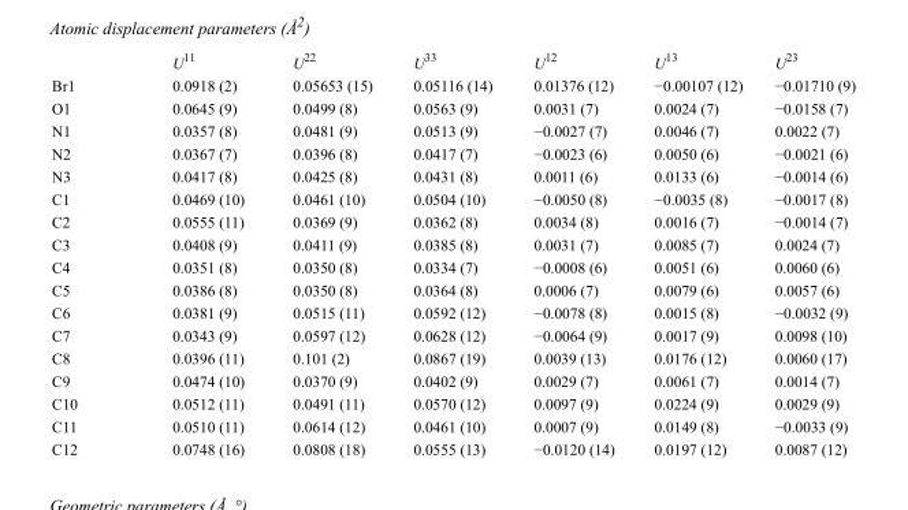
<table><thead><tr><td></td><td>U<sup>11</sup></td><td>U<sup>22</sup></td><td>U<sup>33</sup></td><td>U<sup>12</sup></td><td>U<sup>13</sup></td><td>U<sup>23</sup></td></tr></thead><tbody><tr><td>Br1</td><td>0.0918 (2)</td><td>0.05653 (15)</td><td>0.05116 (14)</td><td>0.01376 (12)</td><td>−0.00107 (12)</td><td>−0.01710 (9)</td></tr><tr><td>O1</td><td>0.0645 (9)</td><td>0.0499 (8)</td><td>0.0563 (9)</td><td>0.0031 (7)</td><td>0.0024 (7)</td><td>−0.0158 (7)</td></tr><tr><td>N1</td><td>0.0357 (8)</td><td>0.0481 (9)</td><td>0.0513 (9)</td><td>−0.0027 (7)</td><td>0.0046 (7)</td><td>0.0022 (7)</td></tr><tr><td>N2</td><td>0.0367 (7)</td><td>0.0396 (8)</td><td>0.0417 (7)</td><td>−0.0023 (6)</td><td>0.0050 (6)</td><td>−0.0021 (6)</td></tr><tr><td>N3</td><td>0.0417 (8)</td><td>0.0425 (8)</td><td>0.0431 (8)</td><td>0.0011 (6)</td><td>0.0133 (6)</td><td>−0.0014 (6)</td></tr><tr><td>C1</td><td>0.0469 (10)</td><td>0.0461 (10)</td><td>0.0504 (10)</td><td>−0.0050 (8)</td><td>−0.0035 (8)</td><td>−0.0017 (8)</td></tr><tr><td>C2</td><td>0.0555 (11)</td><td>0.0369 (9)</td><td>0.0362 (8)</td><td>0.0034 (8)</td><td>0.0016 (7)</td><td>−0.0014 (7)</td></tr><tr><td>C3</td><td>0.0408 (9)</td><td>0.0411 (9)</td><td>0.0385 (8)</td><td>0.0031 (7)</td><td>0.0085 (7)</td><td>0.0024 (7)</td></tr><tr><td>C4</td><td>0.0351 (8)</td><td>0.0350 (8)</td><td>0.0334 (7)</td><td>−0.0008 (6)</td><td>0.0051 (6)</td><td>0.0060 (6)</td></tr><tr><td>C5</td><td>0.0386 (8)</td><td>0.0350 (8)</td><td>0.0364 (8)</td><td>0.0006 (7)</td><td>0.0079 (6)</td><td>0.0057 (6)</td></tr><tr><td>C6</td><td>0.0381 (9)</td><td>0.0515 (11)</td><td>0.0592 (12)</td><td>−0.0078 (8)</td><td>0.0015 (8)</td><td>−0.0032 (9)</td></tr><tr><td>C7</td><td>0.0343 (9)</td><td>0.0597 (12)</td><td>0.0628 (12)</td><td>−0.0064 (9)</td><td>0.0017 (9)</td><td>0.0098 (10)</td></tr><tr><td>C8</td><td>0.0396 (11)</td><td>0.101 (2)</td><td>0.0867 (19)</td><td>0.0039 (13)</td><td>0.0176 (12)</td><td>0.0060 (17)</td></tr><tr><td>C9</td><td>0.0474 (10)</td><td>0.0370 (9)</td><td>0.0402 (9)</td><td>0.0029 (7)</td><td>0.0061 (7)</td><td>0.0014 (7)</td></tr><tr><td>C10</td><td>0.0512 (11)</td><td>0.0491 (11)</td><td>0.0570 (12)</td><td>0.0097 (9)</td><td>0.0224 (9)</td><td>0.0029 (9)</td></tr><tr><td>C11</td><td>0.0510 (11)</td><td>0.0614 (12)</td><td>0.0461 (10)</td><td>0.0007 (9)</td><td>0.0149 (8)</td><td>−0.0033 (9)</td></tr><tr><td>C12</td><td>0.0748 (16)</td><td>0.0808 (18)</td><td>0.0555 (13)</td><td>−0.0120 (14)</td><td>0.0197 (12)</td><td>0.0087 (12)</td></tr></tbody></table>